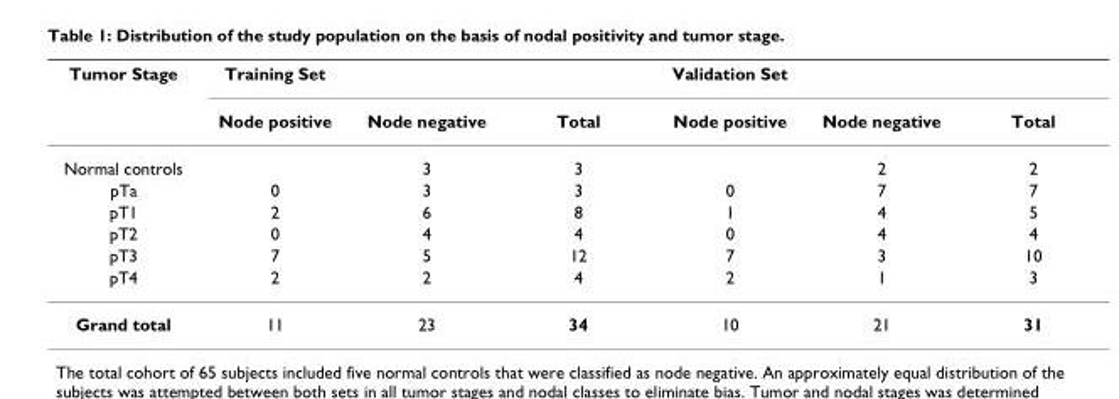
<table><thead><tr><td rowspan="2">Tumor Stage</td><td rowspan="2">Training Set Node positive</td><td rowspan="2">Node negative</td><td rowspan="2">Total</td><td rowspan="2">Validation Set Node positive</td><td rowspan="2">Node negative</td><td rowspan="2">Total</td></tr><tr></tr></thead><tbody><tr><td>Normal controls</td><td></td><td>3</td><td>3</td><td></td><td>2</td><td>2</td></tr><tr><td>pTa</td><td>0</td><td>3</td><td>3</td><td>0</td><td>7</td><td>7</td></tr><tr><td>pT1</td><td>2</td><td>6</td><td>8</td><td>1</td><td>4</td><td>5</td></tr><tr><td>pT2</td><td>0</td><td>4</td><td>4</td><td>0</td><td>4</td><td>4</td></tr><tr><td>pT3</td><td>7</td><td>5</td><td>12</td><td>7</td><td>3</td><td>10</td></tr><tr><td>pT4</td><td>2</td><td>2</td><td>4</td><td>2</td><td>1</td><td>3</td></tr><tr><td>Grand total</td><td>11</td><td>23</td><td>34</td><td>10</td><td>21</td><td>31</td></tr></tbody></table>